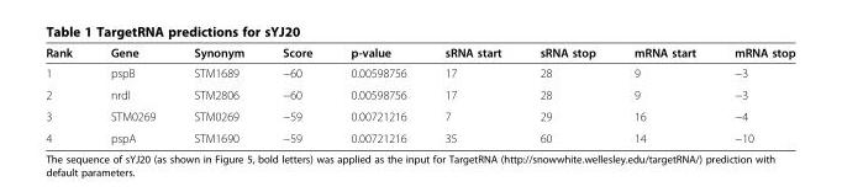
<table><thead><tr><td>Rank</td><td>Gene</td><td>Synonym</td><td>Score</td><td>p-value</td><td>sRNA start</td><td>sRNA stop</td><td>mRNA start</td><td>mRNA stop</td></tr></thead><tbody><tr><td>1</td><td>pspB</td><td>STM1689</td><td>−60</td><td>0.00598756</td><td>17</td><td>28</td><td>9</td><td>−3</td></tr><tr><td>2</td><td>nrdI</td><td>STM2806</td><td>−60</td><td>0.00598756</td><td>17</td><td>28</td><td>9</td><td>−3</td></tr><tr><td>3</td><td>STM0269</td><td>STM0269</td><td>−59</td><td>0.00721216</td><td>7</td><td>29</td><td>16</td><td>−4</td></tr><tr><td>4</td><td>pspA</td><td>STM1690</td><td>−59</td><td>0.00721216</td><td>35</td><td>60</td><td>14</td><td>−10</td></tr></tbody></table>